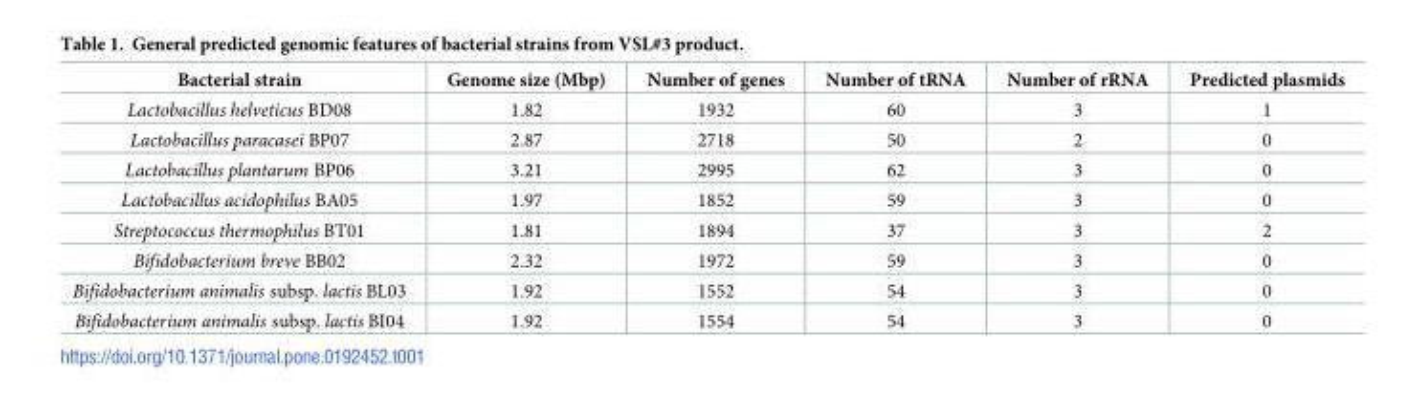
<table><thead><tr><td>Bacterial strain</td><td>Genome size (Mbp)</td><td>Number of genes</td><td>Number of tRNA</td><td>Number of rRNA</td><td>Predicted plasmids</td></tr></thead><tbody><tr><td>Lactobacillus helveticus BD08</td><td>1.82</td><td>1932</td><td>60</td><td>3</td><td>1</td></tr><tr><td>Lactobacillus paracasei BP07</td><td>2.87</td><td>2718</td><td>50</td><td>2</td><td>0</td></tr><tr><td>Lactobacillus plantarum BP06</td><td>3.21</td><td>2995</td><td>62</td><td>3</td><td>0</td></tr><tr><td>Lactobacillus acidophilus BA05</td><td>1.97</td><td>1852</td><td>59</td><td>3</td><td>0</td></tr><tr><td>Streptococcus thermophilus BT01</td><td>1.81</td><td>1894</td><td>37</td><td>3</td><td>2</td></tr><tr><td>Bifidobacterium breve BB02</td><td>2.32</td><td>1972</td><td>59</td><td>3</td><td>0</td></tr><tr><td>Bifidobacterium animalis subsp. lactis BL03</td><td>1.92</td><td>1552</td><td>54</td><td>3</td><td>0</td></tr><tr><td>Bifidobacterium animalis subsp. lactis BI04</td><td>1.92</td><td>1554</td><td>54</td><td>3</td><td>0</td></tr></tbody></table>